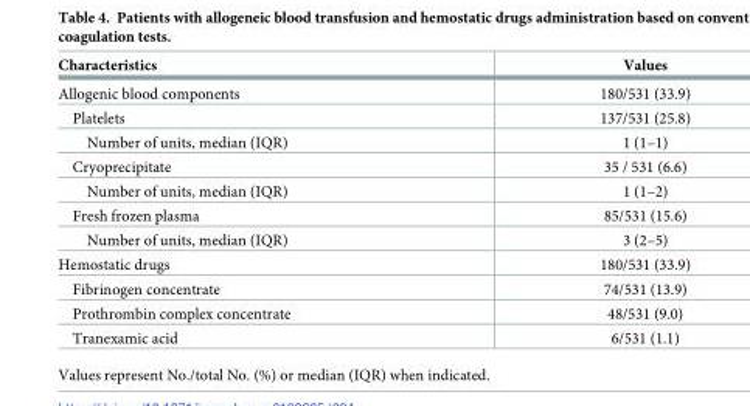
<table><thead><tr><td>Characteristics</td><td>Values</td></tr></thead><tbody><tr><td>Allogenic blood components</td><td>180/531 (33.9)</td></tr><tr><td>Platelets</td><td>137/531 (25.8)</td></tr><tr><td>Number of units, median (IQR)</td><td>1 (1–1)</td></tr><tr><td>Cryoprecipitate</td><td>35 / 531 (6.6)</td></tr><tr><td>Number of units, median (IQR)</td><td>1 (1–2)</td></tr><tr><td>Fresh frozen plasma</td><td>85/531 (15.6)</td></tr><tr><td>Number of units, median (IQR)</td><td>3 (2–5)</td></tr><tr><td>Hemostatic drugs</td><td>180/531 (33.9)</td></tr><tr><td>Fibrinogen concentrate</td><td>74/531 (13.9)</td></tr><tr><td>Prothrombin complex concentrate</td><td>48/531 (9.0)</td></tr><tr><td>Tranexamic acid</td><td>6/531 (1.1)</td></tr></tbody></table>